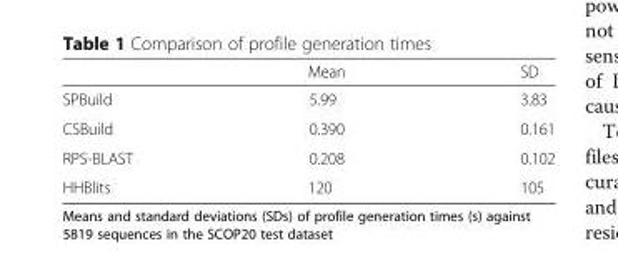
<table><thead><tr><td></td><td>Mean</td><td>SD</td></tr></thead><tbody><tr><td>SPBuild</td><td>5.99</td><td>3.83</td></tr><tr><td>CSBuild</td><td>0.390</td><td>0.161</td></tr><tr><td>RPS-BLAST</td><td>0.208</td><td>0.102</td></tr><tr><td>HHBlits</td><td>120</td><td>105</td></tr></tbody></table>